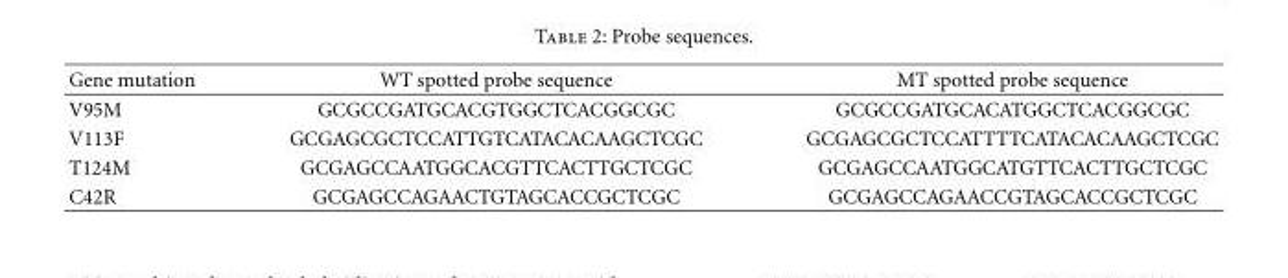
<table><thead><tr><td>Gene mutation</td><td>WT spotted probe sequence</td><td>MT spotted probe sequence</td></tr></thead><tbody><tr><td>V95M</td><td>GCGCCGATGCACGTGGCTCACGGCGC</td><td>GCGCCGATGCACATGGCTCACGGCGC</td></tr><tr><td>V113F</td><td>GCGAGCGCTCCATTGTCATACACAAGCTCGC</td><td>GCGAGCGCTCCATTTTCATACACAAGCTCGC</td></tr><tr><td>T124M</td><td>GCGAGCCAATGGCACGTTCACTTGCTCGC</td><td>GCGAGCCAATGGCATGTTCACTTGCTCGC</td></tr><tr><td>C42R</td><td>GCGAGCCAGAACTGTAGCACCGCTCGC</td><td>GCGAGCCAGAACCGTAGCACCGCTCGC</td></tr></tbody></table>